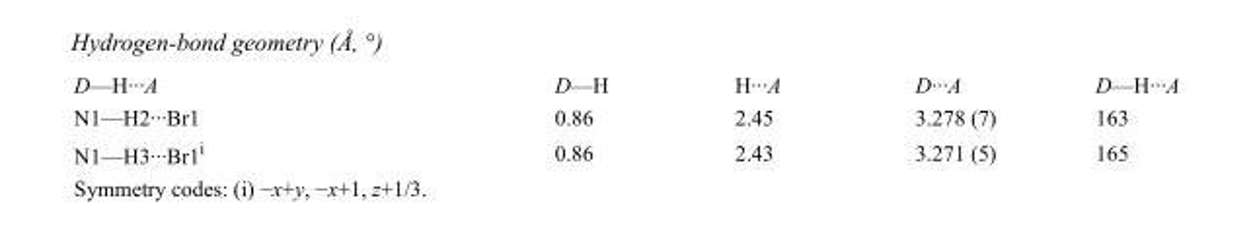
<table><tbody><tr><td>D—H···A</td><td>D—H</td><td>H···A</td><td>D···A</td><td>D—H···A</td></tr><tr><td>N1—H2···Br1</td><td>0.86</td><td>2.45</td><td>3.278 (7)</td><td>163</td></tr><tr><td>N1—H3···Br1<sup>i</sup></td><td>0.86</td><td>2.43</td><td>3.271 (5)</td><td>165</td></tr></tbody></table>